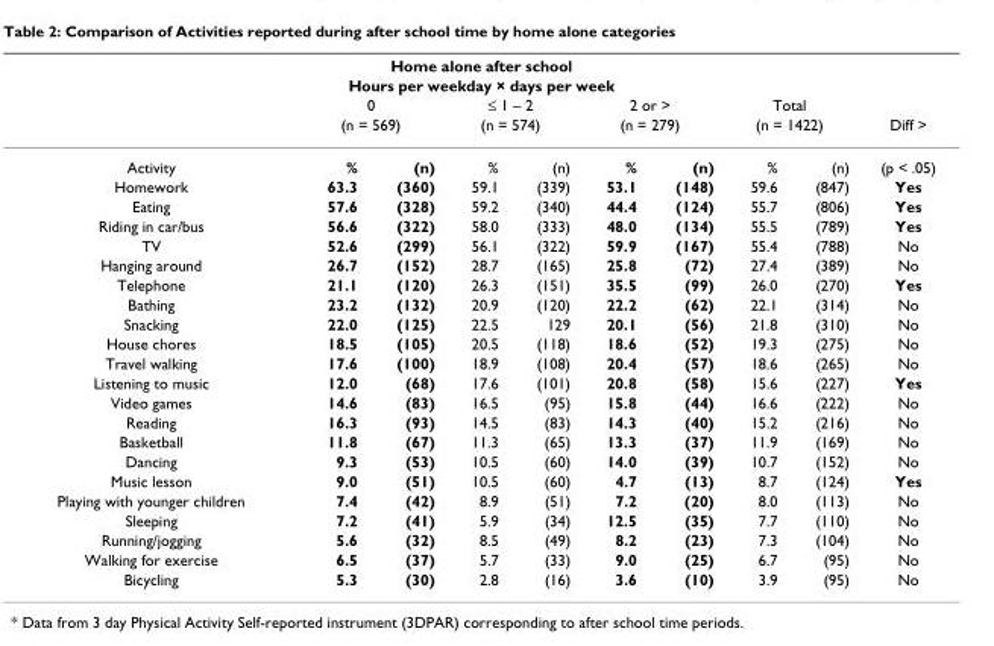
<table><thead><tr><td rowspan="2" colspan="10">Home alone after school Hours per weekday × days per week</td></tr><tr></tr><tr><td rowspan="3">Activity</td><td rowspan="2" colspan="2">0 (n = 569)</td><td rowspan="2" colspan="2">≤ 1 – 2 (n = 574)</td><td rowspan="2" colspan="2">2 or &gt; (n = 279)</td><td rowspan="2" colspan="2">Total (n = 1422)</td><td rowspan="3">Diff &gt; (p &lt; .05)</td></tr><tr></tr><tr><td>%</td><td>(n)</td><td>%</td><td>(n)</td><td>%</td><td>(n)</td><td>%</td><td>(n)</td></tr></thead><tbody><tr><td>Homework</td><td>63.3</td><td>(360)</td><td>59.1</td><td>(339)</td><td>53.1</td><td>(148)</td><td>59.6</td><td>(847)</td><td>Yes</td></tr><tr><td>Eating</td><td>57.6</td><td>(328)</td><td>59.2</td><td>(340)</td><td>44.4</td><td>(124)</td><td>55.7</td><td>(806)</td><td>Yes</td></tr><tr><td>Riding in car/bus</td><td>56.6</td><td>(322)</td><td>58.0</td><td>(333)</td><td>48.0</td><td>(134)</td><td>55.5</td><td>(789)</td><td>Yes</td></tr><tr><td>TV</td><td>52.6</td><td>(299)</td><td>56.1</td><td>(322)</td><td>59.9</td><td>(167)</td><td>55.4</td><td>(788)</td><td>No</td></tr><tr><td>Hanging around</td><td>26.7</td><td>(152)</td><td>28.7</td><td>(165)</td><td>25.8</td><td>(72)</td><td>27.4</td><td>(389)</td><td>No</td></tr><tr><td>Telephone</td><td>21.1</td><td>(120)</td><td>26.3</td><td>(151)</td><td>35.5</td><td>(99)</td><td>26.0</td><td>(270)</td><td>Yes</td></tr><tr><td>Bathing</td><td>23.2</td><td>(132)</td><td>20.9</td><td>(120)</td><td>22.2</td><td>(62)</td><td>22.1</td><td>(314)</td><td>No</td></tr><tr><td>Snacking</td><td>22.0</td><td>(125)</td><td>22.5</td><td>129</td><td>20.1</td><td>(56)</td><td>21.8</td><td>(310)</td><td>No</td></tr><tr><td>House chores</td><td>18.5</td><td>(105)</td><td>20.5</td><td>(118)</td><td>18.6</td><td>(52)</td><td>19.3</td><td>(275)</td><td>No</td></tr><tr><td>Travel walking</td><td>17.6</td><td>(100)</td><td>18.9</td><td>(108)</td><td>20.4</td><td>(57)</td><td>18.6</td><td>(265)</td><td>No</td></tr><tr><td>Listening to music</td><td>12.0</td><td>(68)</td><td>17.6</td><td>(101)</td><td>20.8</td><td>(58)</td><td>15.6</td><td>(227)</td><td>Yes</td></tr><tr><td>Video games</td><td>14.6</td><td>(83)</td><td>16.5</td><td>(95)</td><td>15.8</td><td>(44)</td><td>16.6</td><td>(222)</td><td>No</td></tr><tr><td>Reading</td><td>16.3</td><td>(93)</td><td>14.5</td><td>(83)</td><td>14.3</td><td>(40)</td><td>15.2</td><td>(216)</td><td>No</td></tr><tr><td>Basketball</td><td>11.8</td><td>(67)</td><td>11.3</td><td>(65)</td><td>13.3</td><td>(37)</td><td>11.9</td><td>(169)</td><td>No</td></tr><tr><td>Dancing</td><td>9.3</td><td>(53)</td><td>10.5</td><td>(60)</td><td>14.0</td><td>(39)</td><td>10.7</td><td>(152)</td><td>No</td></tr><tr><td>Music lesson</td><td>9.0</td><td>(51)</td><td>10.5</td><td>(60)</td><td>4.7</td><td>(13)</td><td>8.7</td><td>(124)</td><td>Yes</td></tr><tr><td>Playing with younger children</td><td>7.4</td><td>(42)</td><td>8.9</td><td>(51)</td><td>7.2</td><td>(20)</td><td>8.0</td><td>(113)</td><td>No</td></tr><tr><td>Sleeping</td><td>7.2</td><td>(41)</td><td>5.9</td><td>(34)</td><td>12.5</td><td>(35)</td><td>7.7</td><td>(110)</td><td>No</td></tr><tr><td>Running/jogging</td><td>5.6</td><td>(32)</td><td>8.5</td><td>(49)</td><td>8.2</td><td>(23)</td><td>7.3</td><td>(104)</td><td>No</td></tr><tr><td>Walking for exercise</td><td>6.5</td><td>(37)</td><td>5.7</td><td>(33)</td><td>9.0</td><td>(25)</td><td>6.7</td><td>(95)</td><td>No</td></tr><tr><td>Bicycling</td><td>5.3</td><td>(30)</td><td>2.8</td><td>(16)</td><td>3.6</td><td>(10)</td><td>3.9</td><td>(95)</td><td>No</td></tr></tbody></table>